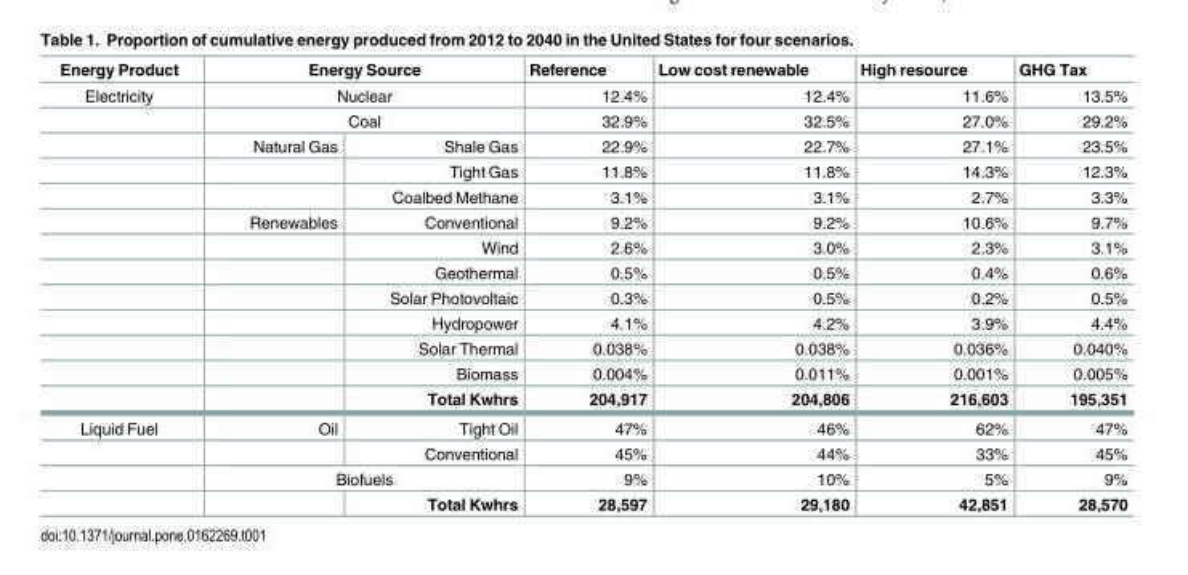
<table><thead><tr><td rowspan="4">Energy Product Electricity</td><td rowspan="3" colspan="2">Energy Source Nuclear Coal</td><td rowspan="4">Reference 12.4% 32.9% 22.9%</td><td rowspan="4">Low cost renewable 12.4% 32.5% 22.7%</td><td rowspan="4">High resource 11.6% 27.0% 27.1%</td><td rowspan="4">GHG Tax 13.5% 29.2% 23.5%</td></tr><tr></tr><tr></tr><tr><td>Natural Gas</td><td>Shale Gas</td></tr></thead><tbody><tr><td></td><td></td><td>Tight Gas</td><td>11.8%</td><td>11.8%</td><td>14.3%</td><td>12.3%</td></tr><tr><td></td><td></td><td>Coalbed Methane</td><td>3.1%</td><td>3.1%</td><td>2.7%</td><td>3.3%</td></tr><tr><td></td><td>Renewables</td><td>Conventional</td><td>9.2%</td><td>9.2%</td><td>10.6%</td><td>9.7%</td></tr><tr><td></td><td></td><td>Wind</td><td>2.6%</td><td>3.0%</td><td>2.3%</td><td>3.1%</td></tr><tr><td></td><td></td><td>Geothermal</td><td>0.5%</td><td>0.5%</td><td>0.4%</td><td>0.6%</td></tr><tr><td></td><td></td><td>Solar Photovoltaic</td><td>0.3%</td><td>0.5%</td><td>0.2%</td><td>0.5%</td></tr><tr><td></td><td></td><td>Hydropower</td><td>4.1%</td><td>4.2%</td><td>3.9%</td><td>4.4%</td></tr><tr><td></td><td></td><td>Solar Thermal</td><td>0.038%</td><td>0.038%</td><td>0.036%</td><td>0.040%</td></tr><tr><td></td><td></td><td>Biomass</td><td>0.004%</td><td>0.011%</td><td>0.001%</td><td>0.005%</td></tr><tr><td></td><td></td><td>Total Kwhrs</td><td>204,917</td><td>204,806</td><td>216,603</td><td>195,351</td></tr><tr><td rowspan="4">Liquid Fuel</td><td>Oil</td><td>Tight Oil</td><td>47%</td><td>46%</td><td>62%</td><td>47%</td></tr><tr><td></td><td>Conventional</td><td>45%</td><td>44%</td><td>33%</td><td>45%</td></tr><tr><td colspan="2">Biofuels</td><td>9%</td><td>10%</td><td>5%</td><td>9%</td></tr><tr><td></td><td>Total Kwhrs</td><td>28,597</td><td>29,180</td><td>42,851</td><td>28,570</td></tr></tbody></table>